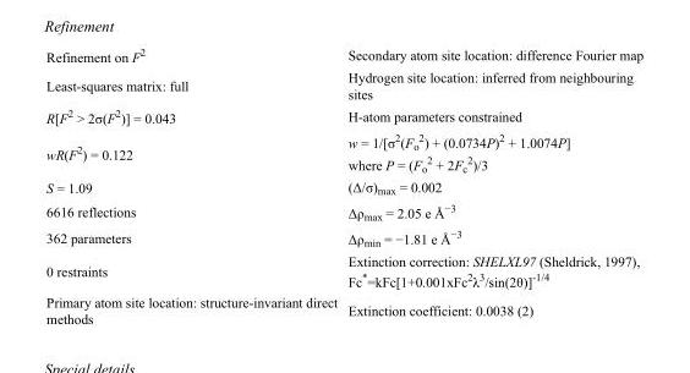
<table><tbody><tr><td>Refinement on F<sup>2</sup></td><td>Secondary atom site location: difference Fourier map</td></tr><tr><td>Least-squares matrix: full</td><td>Hydrogen site location: inferred from neighbouring sites</td></tr><tr><td>R[F<sup>2</sup> &gt; 2σ(F<sup>2</sup>)] = 0.043</td><td>H-atom parameters constrained</td></tr><tr><td>wR(F<sup>2</sup>) = 0.122</td><td>w = 1/[σ<sup>2</sup>(F<sub>o</sub> <sup>2</sup>) + (0.0734P)<sup>2</sup> + 1.0074P] where P = (F<sub>o</sub> <sup>2</sup> + 2F<sub>c</sub> <sup>2</sup>)/3</td></tr><tr><td>S = 1.09</td><td>(Δ/σ)<sub>max</sub> = 0.002</td></tr><tr><td>6616 reflections</td><td>Δρ<sub>max</sub> = 2.05 e Å<sup>−3</sup></td></tr><tr><td>362 parameters</td><td>Δρ<sub>min</sub> = −1.81 e Å<sup>−3</sup></td></tr><tr><td>0 restraints</td><td>Extinction correction: SHELXL97 (Sheldrick, 1997), Fc*=kFc[1+0.001xFc<sup>2</sup>λ<sup>3</sup>/sin(2θ)]<sup>-1/4</sup></td></tr><tr><td>Primary atom site location: structure-invariant direct methods</td><td>Extinction coefficient: 0.0038 (2)</td></tr></tbody></table>